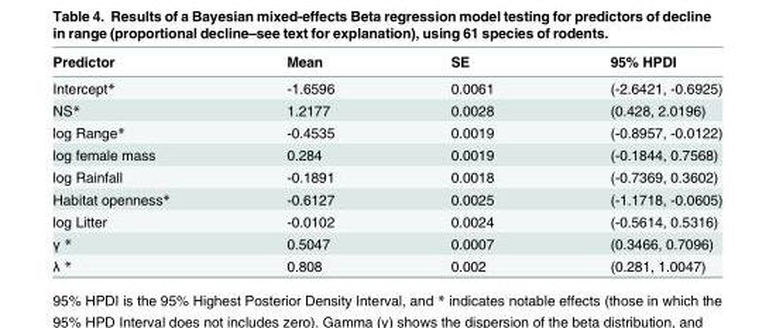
<table><thead><tr><td>Predictor</td><td>Mean</td><td>SE</td><td>95% HPDI</td></tr></thead><tbody><tr><td>Intercept*</td><td>-1.6596</td><td>0.0061</td><td>(-2.6421, -0.6925)</td></tr><tr><td>NS*</td><td>1.2177</td><td>0.0028</td><td>(0.428, 2.0196)</td></tr><tr><td>log Range*</td><td>-0.4535</td><td>0.0019</td><td>(-0.8957, -0.0122)</td></tr><tr><td>log female mass</td><td>0.284</td><td>0.0019</td><td>(-0.1844, 0.7568)</td></tr><tr><td>log Rainfall</td><td>-0.1891</td><td>0.0018</td><td>(-0.7369, 0.3602)</td></tr><tr><td>Habitat openness*</td><td>-0.6127</td><td>0.0025</td><td>(-1.1718, -0.0605)</td></tr><tr><td>log Litter</td><td>-0.0102</td><td>0.0024</td><td>(-0.5614, 0.5316)</td></tr><tr><td>γ *</td><td>0.5047</td><td>0.0007</td><td>(0.3466, 0.7096)</td></tr><tr><td>λ *</td><td>0.808</td><td>0.002</td><td>(0.281, 1.0047)</td></tr></tbody></table>